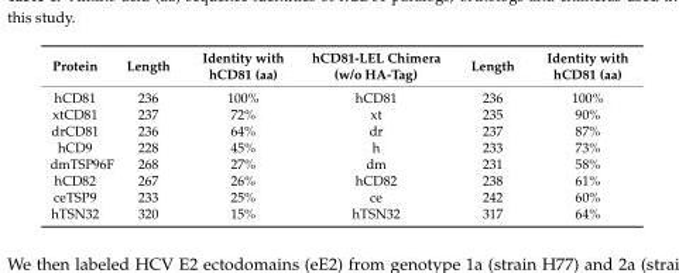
<table><thead><tr><td>Protein</td><td>Length</td><td>Identity with hCD81 (aa)</td><td>hCD81-LEL Chimera (w/o HA-Tag)</td><td>Length</td><td>Identity with hCD81 (aa)</td></tr></thead><tbody><tr><td>hCD81</td><td>236</td><td>100%</td><td>hCD81</td><td>236</td><td>100%</td></tr><tr><td>xtCD81</td><td>237</td><td>72%</td><td>xt</td><td>235</td><td>90%</td></tr><tr><td>drCD81</td><td>236</td><td>64%</td><td>dr</td><td>237</td><td>87%</td></tr><tr><td>hCD9</td><td>228</td><td>45%</td><td>h</td><td>233</td><td>73%</td></tr><tr><td>dmTSP96F</td><td>268</td><td>27%</td><td>dm</td><td>231</td><td>58%</td></tr><tr><td>hCD82</td><td>267</td><td>26%</td><td>hCD82</td><td>238</td><td>61%</td></tr><tr><td>ceTSP9</td><td>233</td><td>25%</td><td>ce</td><td>242</td><td>60%</td></tr><tr><td>hTSN32</td><td>320</td><td>15%</td><td>hTSN32</td><td>317</td><td>64%</td></tr></tbody></table>